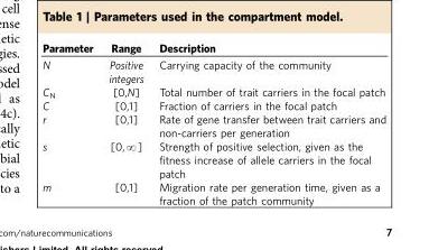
<table><thead><tr><td>Parameter</td><td>Range</td><td>Description</td></tr></thead><tbody><tr><td>N</td><td>Positive integers</td><td>Carrying capacity of the community</td></tr><tr><td>C<sub>N</sub></td><td>[0,N]</td><td>Total number of trait carriers in the focal patch</td></tr><tr><td>C</td><td>[0,1]</td><td>Fraction of carriers in the focal patch</td></tr><tr><td>r</td><td>[0,1]</td><td>Rate of gene transfer between trait carriers and non-carriers per generation</td></tr><tr><td>s</td><td>[0,∞]</td><td>Strength of positive selection, given as the fitness increase of allele carriers in the focal patch</td></tr><tr><td>m</td><td>[0,1]</td><td>Migration rate per generation time, given as a fraction of the patch community</td></tr></tbody></table>